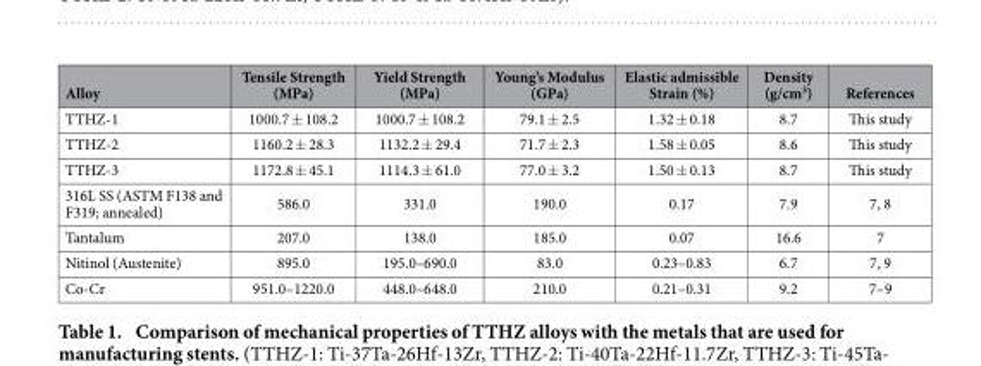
<table><thead><tr><td>Alloy</td><td>Tensile Strength (MPa)</td><td>Yield Strength (MPa)</td><td>Young’s Modulus (GPa)</td><td>Elastic admissible Strain (%)</td><td>Density (g/cm<sup>3</sup>)</td><td>References</td></tr></thead><tbody><tr><td>TTHZ-1</td><td>1000.7 ± 108.2</td><td>1000.7 ± 108.2</td><td>79.1 ± 2.5</td><td>1.32 ± 0.18</td><td>8.7</td><td>This study</td></tr><tr><td>TTHZ-2</td><td>1160.2 ± 28.3</td><td>1132.2 ± 29.4</td><td>71.7 ± 2.3</td><td>1.58 ± 0.05</td><td>8.6</td><td>This study</td></tr><tr><td>TTHZ-3</td><td>1172.8 ± 45.1</td><td>1114.3 ± 61.0</td><td>77.0 ± 3.2</td><td>1.50 ± 0.13</td><td>8.7</td><td>This study</td></tr><tr><td>316L SS (ASTM F138 and F319; annealed)</td><td>586.0</td><td>331.0</td><td>190.0</td><td>0.17</td><td>7.9</td><td>7, 8</td></tr><tr><td>Tantalum</td><td>207.0</td><td>138.0</td><td>185.0</td><td>0.07</td><td>16.6</td><td>7</td></tr><tr><td>Nitinol (Austenite)</td><td>895.0</td><td>195.0–690.0</td><td>83.0</td><td>0.23–0.83</td><td>6.7</td><td>7, 9</td></tr><tr><td>Co-Cr</td><td>951.0–1220.0</td><td>448.0–648.0</td><td>210.0</td><td>0.21–0.31</td><td>9.2</td><td>7–9</td></tr></tbody></table>